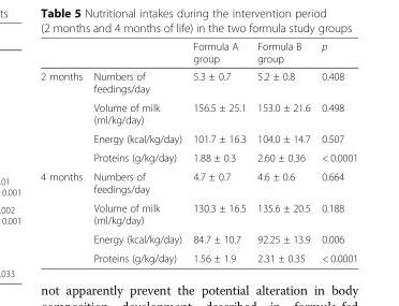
<table><thead><tr><td></td><td></td><td>Formula A group</td><td>Formula B group</td><td>p</td></tr></thead><tbody><tr><td rowspan="4">2 months</td><td>Numbers of feedings/day</td><td>5.3 ± 0.7</td><td>5.2 ± 0.8</td><td>0.408</td></tr><tr><td>Volume of milk (ml/kg/day)</td><td>156.5 ± 25.1</td><td>153.0 ± 21.6</td><td>0.498</td></tr><tr><td>Energy (kcal/kg/day)</td><td>101.7 ± 16.3</td><td>104.0 ± 14.7</td><td>0.507</td></tr><tr><td>Proteins (g/kg/day)</td><td>1.88 ± 0.3</td><td>2.60 ± 0.36</td><td>&lt; 0.0001</td></tr><tr><td rowspan="4">4 months</td><td>Numbers of feedings/day</td><td>4.7 ± 0.7</td><td>4.6 ± 0.6</td><td>0.664</td></tr><tr><td>Volume of milk (ml/kg/day)</td><td>130.3 ± 16.5</td><td>135.6 ± 20.5</td><td>0.188</td></tr><tr><td>Energy (kcal/kg/day)</td><td>84.7 ± 10.7</td><td>92.25 ± 13.9</td><td>0.006</td></tr><tr><td>Proteins (g/kg/day)</td><td>1.56 ± 1.9</td><td>2.31 ± 0.35</td><td>&lt; 0.0001</td></tr></tbody></table>